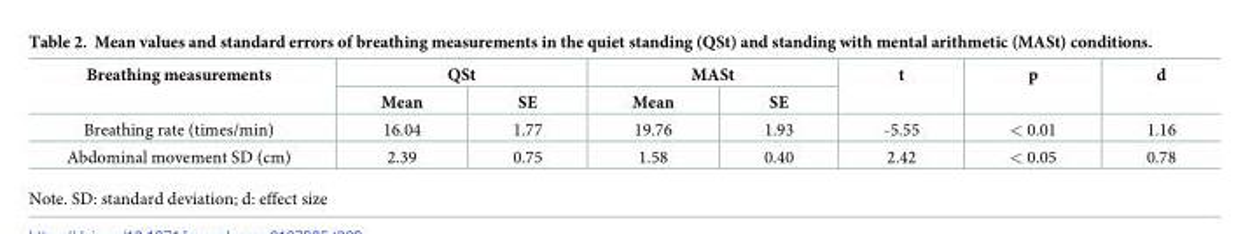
<table><thead><tr><td rowspan="2">Breathing measurements</td><td colspan="2">QSt</td><td colspan="2">MASt</td><td rowspan="2">t</td><td rowspan="2">p</td><td rowspan="2">d</td></tr><tr><td>Mean</td><td>SE</td><td>Mean</td><td>SE</td></tr></thead><tbody><tr><td>Breathing rate (times/min)</td><td>16.04</td><td>1.77</td><td>19.76</td><td>1.93</td><td>-5.55</td><td>&lt; 0.01</td><td>1.16</td></tr><tr><td>Abdominal movement SD (cm)</td><td>2.39</td><td>0.75</td><td>1.58</td><td>0.40</td><td>2.42</td><td>&lt; 0.05</td><td>0.78</td></tr></tbody></table>